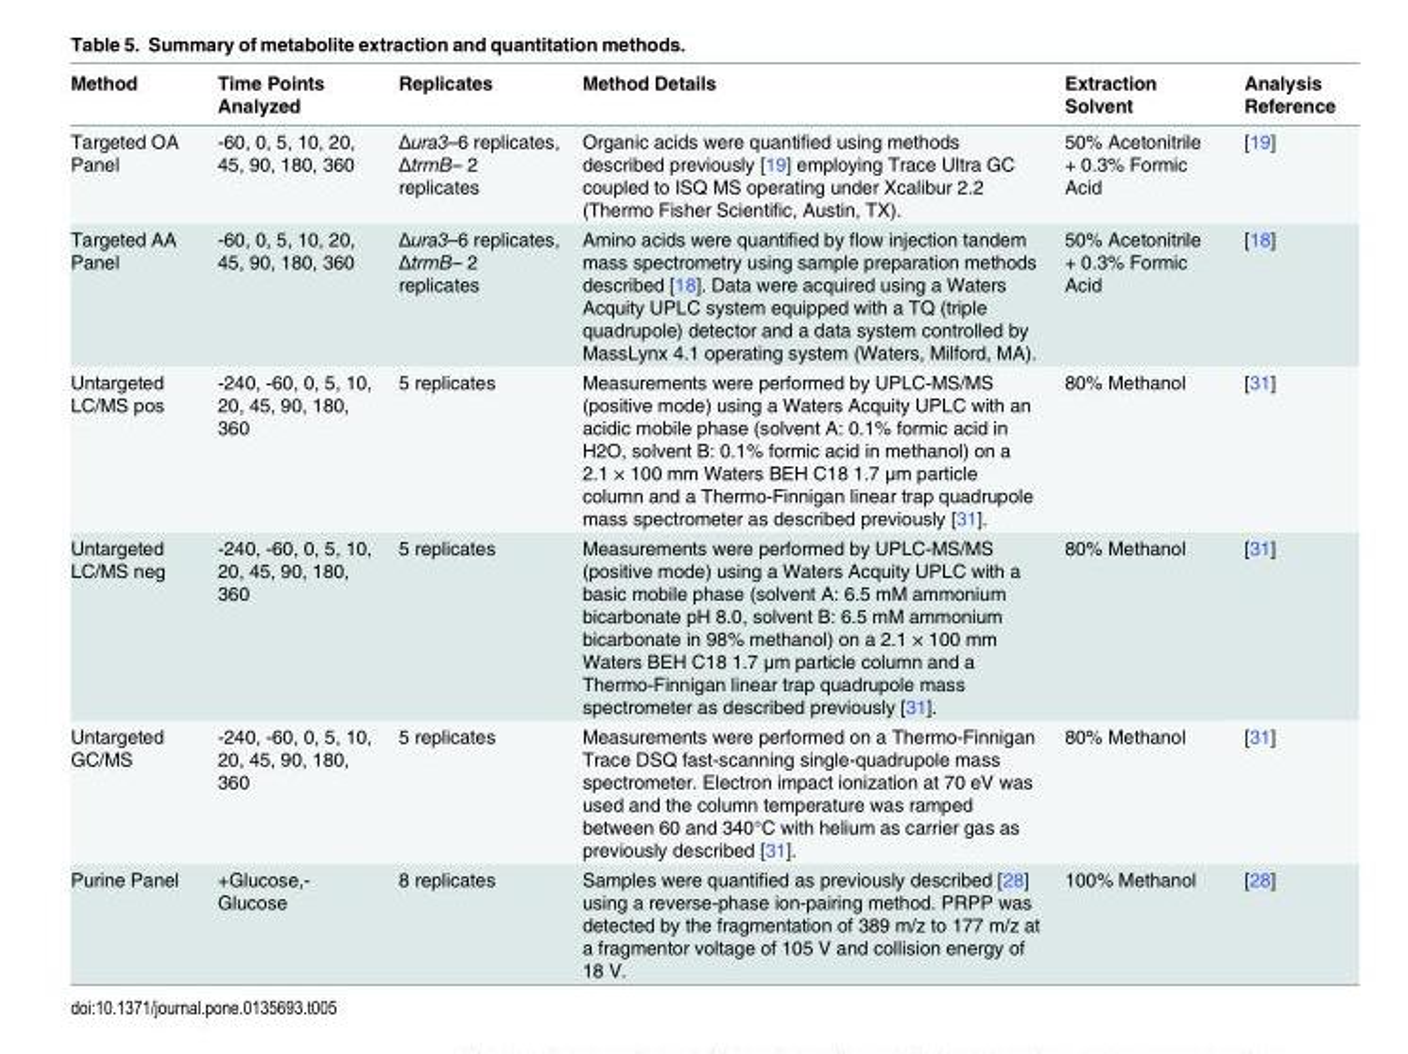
<table><thead><tr><td>Method</td><td>Time Points Analyzed</td><td>Replicates</td><td>Method Details</td><td>Extraction Solvent</td><td>Analysis Reference</td></tr></thead><tbody><tr><td>Targeted OA Panel</td><td>-60, 0, 5, 10, 20, 45, 90, 180, 360</td><td>Δura3–6 replicates, ΔtrmB– 2 replicates</td><td>Organic acids were quantified using methods described previously [19] employing Trace Ultra GC coupled to ISQ MS operating under Xcalibur 2.2 (Thermo Fisher Scientific, Austin, TX).</td><td>50% Acetonitrile + 0.3% Formic Acid</td><td>[19]</td></tr><tr><td>Targeted AA Panel</td><td>-60, 0, 5, 10, 20, 45, 90, 180, 360</td><td>Δura3–6 replicates, ΔtrmB– 2 replicates</td><td>Amino acids were quantified by flow injection tandem mass spectrometry using sample preparation methods described [18]. Data were acquired using a Waters Acquity UPLC system equipped with a TQ (triple quadrupole) detector and a data system controlled by MassLynx 4.1 operating system (Waters, Milford, MA).</td><td>50% Acetonitrile + 0.3% Formic Acid</td><td>[18]</td></tr><tr><td>Untargeted LC/MS pos</td><td>-240, -60, 0, 5, 10, 20, 45, 90, 180, 360</td><td>5 replicates</td><td>Measurements were performed by UPLC-MS/MS (positive mode) using a Waters Acquity UPLC with an acidic mobile phase (solvent A: 0.1% formic acid in H2O, solvent B: 0.1% formic acid in methanol) on a 2.1 × 100 mm Waters BEH C18 1.7 μm particle column and a Thermo-Finnigan linear trap quadrupole mass spectrometer as described previously [31].</td><td>80% Methanol</td><td>[31]</td></tr><tr><td>Untargeted LC/MS neg</td><td>-240, -60, 0, 5, 10, 20, 45, 90, 180, 360</td><td>5 replicates</td><td>Measurements were performed by UPLC-MS/MS (positive mode) using a Waters Acquity UPLC with a basic mobile phase (solvent A: 6.5 mM ammonium bicarbonate pH 8.0, solvent B: 6.5 mM ammonium bicarbonate in 98% methanol) on a 2.1 × 100 mm Waters BEH C18 1.7 μm particle column and a Thermo-Finnigan linear trap quadrupole mass spectrometer as described previously [31].</td><td>80% Methanol</td><td>[31]</td></tr><tr><td>Untargeted GC/MS</td><td>-240, -60, 0, 5, 10, 20, 45, 90, 180, 360</td><td>5 replicates</td><td>Measurements were performed on a Thermo-Finnigan Trace DSQ fast-scanning single-quadrupole mass spectrometer. Electron impact ionization at 70 eV was used and the column temperature was ramped between 60 and 340°C with helium as carrier gas as previously described [31].</td><td>80% Methanol</td><td>[31]</td></tr><tr><td>Purine Panel</td><td>+Glucose,- Glucose</td><td>8 replicates</td><td>Samples were quantified as previously described [28] using a reverse-phase ion-pairing method. PRPP was detected by the fragmentation of 389 m/z to 177 m/z at a fragmentor voltage of 105 V and collision energy of 18 V.</td><td>100% Methanol</td><td>[28]</td></tr></tbody></table>